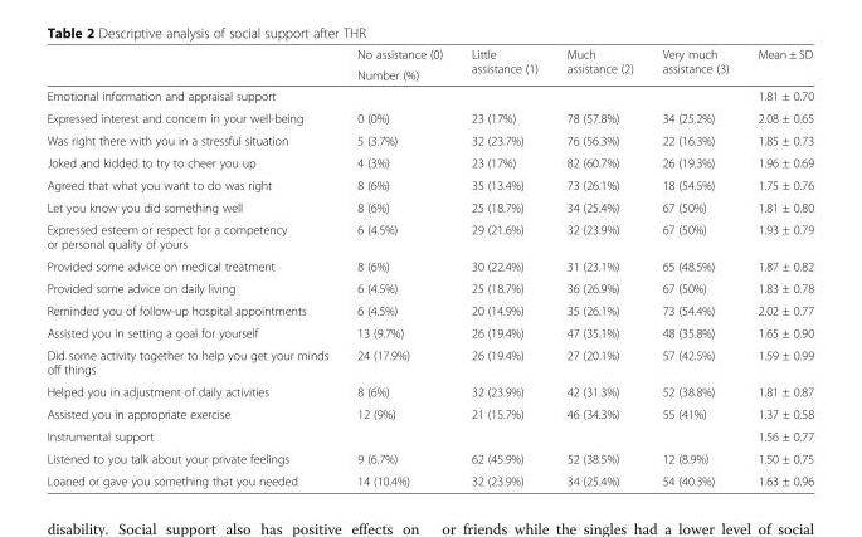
<table><thead><tr><td rowspan="2"></td><td rowspan="2">No assistance (0) Number (%)</td><td rowspan="2">Little assistance (1)</td><td rowspan="2">Much assistance (2)</td><td rowspan="2">Very much assistance (3)</td><td rowspan="2">Mean ± SD</td></tr><tr></tr></thead><tbody><tr><td>Emotional information and appraisal support</td><td></td><td></td><td></td><td></td><td>1.81 ± 0.70</td></tr><tr><td>Expressed interest and concern in your well-being</td><td>0 (0%)</td><td>23 (17%)</td><td>78 (57.8%)</td><td>34 (25.2%)</td><td>2.08 ± 0.65</td></tr><tr><td>Was right there with you in a stressful situation</td><td>5 (3.7%)</td><td>32 (23.7%)</td><td>76 (56.3%)</td><td>22 (16.3%)</td><td>1.85 ± 0.73</td></tr><tr><td>Joked and kidded to try to cheer you up</td><td>4 (3%)</td><td>23 (17%)</td><td>82 (60.7%)</td><td>26 (19.3%)</td><td>1.96 ± 0.69</td></tr><tr><td>Agreed that what you want to do was right</td><td>8 (6%)</td><td>35 (13.4%)</td><td>73 (26.1%)</td><td>18 (54.5%)</td><td>1.75 ± 0.76</td></tr><tr><td>Let you know you did something well</td><td>8 (6%)</td><td>25 (18.7%)</td><td>34 (25.4%)</td><td>67 (50%)</td><td>1.81 ± 0.80</td></tr><tr><td>Expressed esteem or respect for a competency or personal quality of yours</td><td>6 (4.5%)</td><td>29 (21.6%)</td><td>32 (23.9%)</td><td>67 (50%)</td><td>1.93 ± 0.79</td></tr><tr><td>Provided some advice on medical treatment</td><td>8 (6%)</td><td>30 (22.4%)</td><td>31 (23.1%)</td><td>65 (48.5%)</td><td>1.87 ± 0.82</td></tr><tr><td>Provided some advice on daily living</td><td>6 (4.5%)</td><td>25 (18.7%)</td><td>36 (26.9%)</td><td>67 (50%)</td><td>1.83 ± 0.78</td></tr><tr><td>Reminded you of follow-up hospital appointments</td><td>6 (4.5%)</td><td>20 (14.9%)</td><td>35 (26.1%)</td><td>73 (54.4%)</td><td>2.02 ± 0.77</td></tr><tr><td>Assisted you in setting a goal for yourself</td><td>13 (9.7%)</td><td>26 (19.4%)</td><td>47 (35.1%)</td><td>48 (35.8%)</td><td>1.65 ± 0.90</td></tr><tr><td>Did some activity together to help you get your minds off things</td><td>24 (17.9%)</td><td>26 (19.4%)</td><td>27 (20.1%)</td><td>57 (42.5%)</td><td>1.59 ± 0.99</td></tr><tr><td>Helped you in adjustment of daily activities</td><td>8 (6%)</td><td>32 (23.9%)</td><td>42 (31.3%)</td><td>52 (38.8%)</td><td>1.81 ± 0.87</td></tr><tr><td>Assisted you in appropriate exercise</td><td>12 (9%)</td><td>21 (15.7%)</td><td>46 (34.3%)</td><td>55 (41%)</td><td>1.37 ± 0.58</td></tr><tr><td>Instrumental support</td><td></td><td></td><td></td><td></td><td>1.56 ± 0.77</td></tr><tr><td>Listened to you talk about your private feelings</td><td>9 (6.7%)</td><td>62 (45.9%)</td><td>52 (38.5%)</td><td>12 (8.9%)</td><td>1.50 ± 0.75</td></tr><tr><td>Loaned or gave you something that you needed</td><td>14 (10.4%)</td><td>32 (23.9%)</td><td>34 (25.4%)</td><td>54 (40.3%)</td><td>1.63 ± 0.96</td></tr></tbody></table>